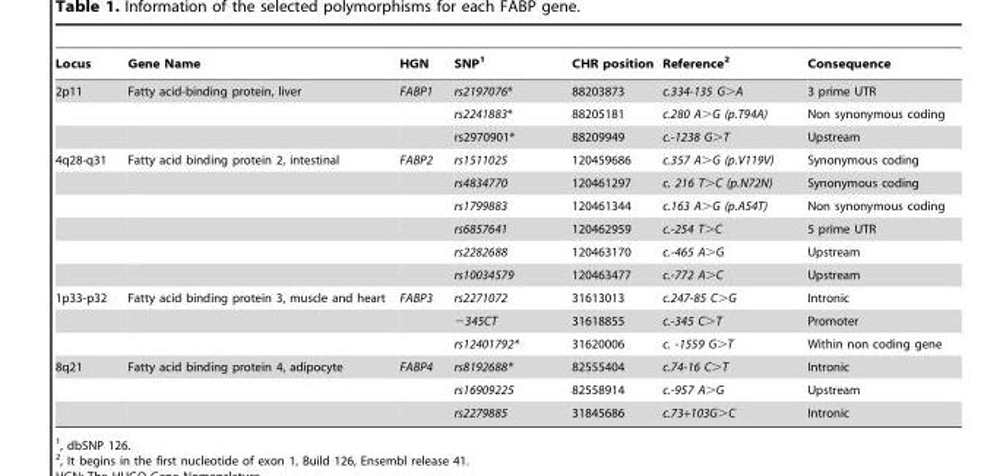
<table><thead><tr><td>Locus</td><td>Gene Name</td><td>HGN</td><td>SNP<sup>1</sup></td><td>CHR position</td><td>Reference<sup>2</sup></td><td>Consequence</td></tr></thead><tbody><tr><td rowspan="3">2p11</td><td>Fatty acid-binding protein, liver</td><td>FABP1</td><td>rs2197076*</td><td>88203873</td><td>c.334-135 G&gt;A</td><td>3 prime UTR</td></tr><tr><td></td><td></td><td>rs2241883*</td><td>88205181</td><td>c.280 A&gt;G (p.T94A)</td><td>Non synonymous coding</td></tr><tr><td></td><td></td><td>rs2970901*</td><td>88209949</td><td>c.-1238 G&gt;T</td><td>Upstream</td></tr><tr><td rowspan="6">4q28-q31</td><td>Fatty acid binding protein 2, intestinal</td><td>FABP2</td><td>rs1511025</td><td>120459686</td><td>c.357 A&gt;G (p.V119V)</td><td>Synonymous coding</td></tr><tr><td></td><td></td><td>rs4834770</td><td>120461297</td><td>c. 216 T&gt;C (p.N72N)</td><td>Synonymous coding</td></tr><tr><td></td><td></td><td>rs1799883</td><td>120461344</td><td>c.163 A&gt;G (p.A54T)</td><td>Non synonymous coding</td></tr><tr><td></td><td></td><td>rs6857641</td><td>120462959</td><td>c.-254 T&gt;C</td><td>5 prime UTR</td></tr><tr><td></td><td></td><td>rs2282688</td><td>120463170</td><td>c.-465 A&gt;G</td><td>Upstream</td></tr><tr><td></td><td></td><td>rs10034579</td><td>120463477</td><td>c.-772 A&gt;C</td><td>Upstream</td></tr><tr><td rowspan="3">1p33-p32</td><td>Fatty acid binding protein 3, muscle and heart</td><td>FABP3</td><td>rs2271072</td><td>31613013</td><td>c.247-85 C&gt;G</td><td>Intronic</td></tr><tr><td></td><td></td><td>−345CT</td><td>31618855</td><td>c.-345 C&gt;T</td><td>Promoter</td></tr><tr><td></td><td></td><td>rs12401792*</td><td>31620006</td><td>c. -1559 G&gt;T</td><td>Within non coding gene</td></tr><tr><td rowspan="3">8q21</td><td>Fatty acid binding protein 4, adipocyte</td><td>FABP4</td><td>rs8192688*</td><td>82555404</td><td>c.74-16 C&gt;T</td><td>Intronic</td></tr><tr><td></td><td></td><td>rs16909225</td><td>82558914</td><td>c.-957 A&gt;G</td><td>Upstream</td></tr><tr><td></td><td></td><td>rs2279885</td><td>31845686</td><td>c.73+103G&gt;C</td><td>Intronic</td></tr></tbody></table>